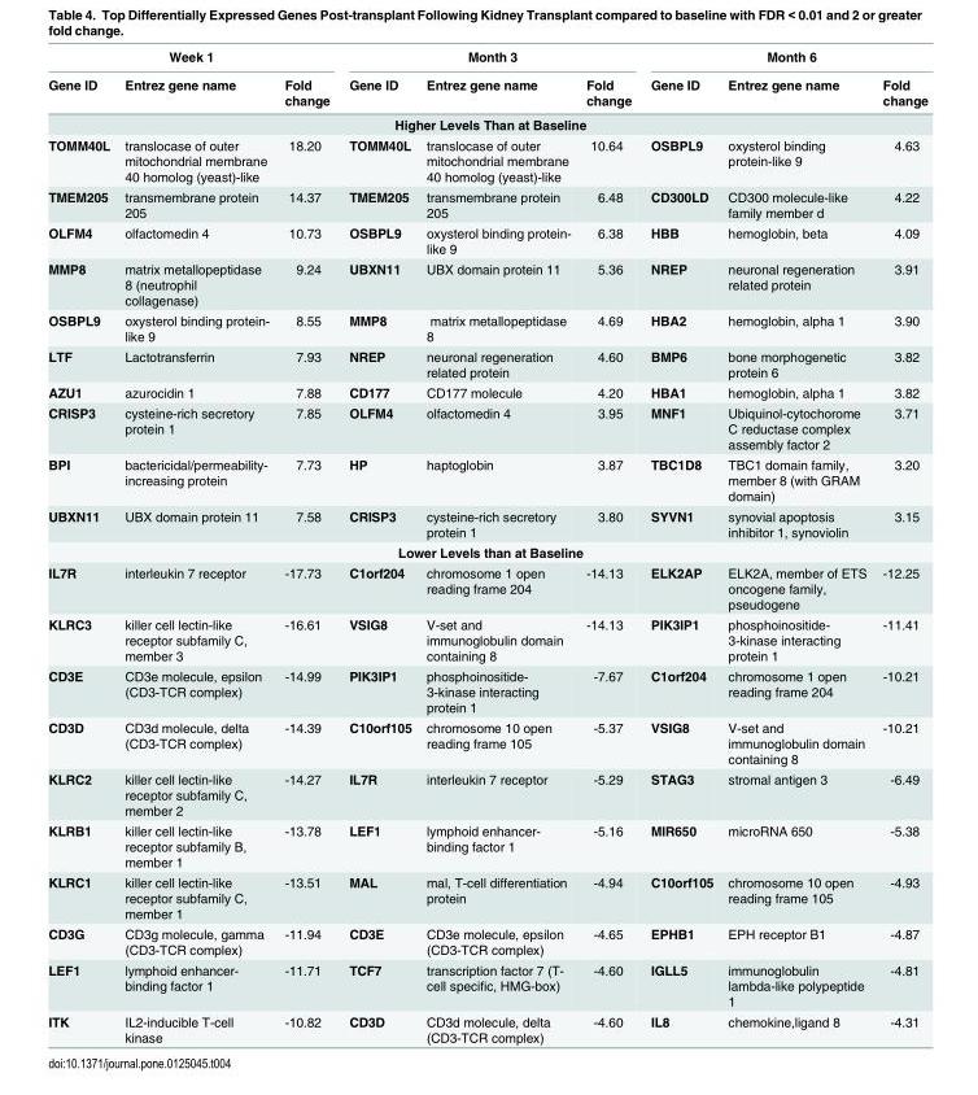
<table><thead><tr><td colspan="3">Week 1</td><td colspan="3">Month 3</td><td colspan="3">Month 6</td></tr><tr><td>Gene ID</td><td>Entrez gene name</td><td>Fold change</td><td>Gene ID</td><td>Entrez gene name</td><td>Fold change</td><td>Gene ID</td><td>Entrez gene name</td><td>Fold change</td></tr></thead><tbody><tr><td colspan="9">Higher Levels Than at Baseline</td></tr><tr><td>TOMM40L</td><td>translocase of outer mitochondrial membrane 40 homolog (yeast)-like</td><td>18.20</td><td>TOMM40L</td><td>translocase of outer mitochondrial membrane 40 homolog (yeast)-like</td><td>10.64</td><td>OSBPL9</td><td>oxysterol binding protein-like 9</td><td>4.63</td></tr><tr><td>TMEM205</td><td>transmembrane protein 205</td><td>14.37</td><td>TMEM205</td><td>transmembrane protein 205</td><td>6.48</td><td>CD300LD</td><td>CD300 molecule-like family member d</td><td>4.22</td></tr><tr><td>OLFM4</td><td>olfactomedin 4</td><td>10.73</td><td>OSBPL9</td><td>oxysterol binding protein- like 9</td><td>6.38</td><td>HBB</td><td>hemoglobin, beta</td><td>4.09</td></tr><tr><td>MMP8</td><td>matrix metallopeptidase 8 (neutrophil collagenase)</td><td>9.24</td><td>UBXN11</td><td>UBX domain protein 11</td><td>5.36</td><td>NREP</td><td>neuronal regeneration related protein</td><td>3.91</td></tr><tr><td>OSBPL9</td><td>oxysterol binding protein- like 9</td><td>8.55</td><td>MMP8</td><td>matrix metallopeptidase 8</td><td>4.69</td><td>HBA2</td><td>hemoglobin, alpha 1</td><td>3.90</td></tr><tr><td>LTF</td><td>Lactotransferrin</td><td>7.93</td><td>NREP</td><td>neuronal regeneration related protein</td><td>4.60</td><td>BMP6</td><td>bone morphogenetic protein 6</td><td>3.82</td></tr><tr><td>AZU1</td><td>azurocidin 1</td><td>7.88</td><td>CD177</td><td>CD177 molecule</td><td>4.20</td><td>HBA1</td><td>hemoglobin, alpha 1</td><td>3.82</td></tr><tr><td>CRISP3</td><td>cysteine-rich secretory protein 1</td><td>7.85</td><td>OLFM4</td><td>olfactomedin 4</td><td>3.95</td><td>MNF1</td><td>Ubiquinol-cytochorome C reductase complex assembly factor 2</td><td>3.71</td></tr><tr><td>BPI</td><td>bactericidal/permeability- increasing protein</td><td>7.73</td><td>HP</td><td>haptoglobin</td><td>3.87</td><td>TBC1D8</td><td>TBC1 domain family, member 8 (with GRAM domain)</td><td>3.20</td></tr><tr><td>UBXN11</td><td>UBX domain protein 11</td><td>7.58</td><td>CRISP3</td><td>cysteine-rich secretory protein 1</td><td>3.80</td><td>SYVN1</td><td>synovial apoptosis inhibitor 1, synoviolin</td><td>3.15</td></tr><tr><td colspan="9">Lower Levels than at Baseline</td></tr><tr><td>IL7R</td><td>interleukin 7 receptor</td><td>-17.73</td><td>C1orf204</td><td>chromosome 1 open reading frame 204</td><td>-14.13</td><td>ELK2AP</td><td>ELK2A, member of ETS oncogene family, pseudogene</td><td>-12.25</td></tr><tr><td>KLRC3</td><td>killer cell lectin-like receptor subfamily C, member 3</td><td>-16.61</td><td>VSIG8</td><td>V-set and immunoglobulin domain containing 8</td><td>-14.13</td><td>PIK3IP1</td><td>phosphoinositide- 3-kinase interacting protein 1</td><td>-11.41</td></tr><tr><td>CD3E</td><td>CD3e molecule, epsilon (CD3-TCR complex)</td><td>-14.99</td><td>PIK3IP1</td><td>phosphoinositide- 3-kinase interacting protein 1</td><td>-7.67</td><td>C1orf204</td><td>chromosome 1 open reading frame 204</td><td>-10.21</td></tr><tr><td>CD3D</td><td>CD3d molecule, delta (CD3-TCR complex)</td><td>-14.39</td><td>C10orf105</td><td>chromosome 10 open reading frame 105</td><td>-5.37</td><td>VSIG8</td><td>V-set and immunoglobulin domain containing 8</td><td>-10.21</td></tr><tr><td>KLRC2</td><td>killer cell lectin-like receptor subfamily C, member 2</td><td>-14.27</td><td>IL7R</td><td>interleukin 7 receptor</td><td>-5.29</td><td>STAG3</td><td>stromal antigen 3</td><td>-6.49</td></tr><tr><td>KLRB1</td><td>killer cell lectin-like receptor subfamily B, member 1</td><td>-13.78</td><td>LEF1</td><td>lymphoid enhancer- binding factor 1</td><td>-5.16</td><td>MIR650</td><td>microRNA 650</td><td>-5.38</td></tr><tr><td>KLRC1</td><td>killer cell lectin-like receptor subfamily C, member 1</td><td>-13.51</td><td>MAL</td><td>mal, T-cell differentiation protein</td><td>-4.94</td><td>C10orf105</td><td>chromosome 10 open reading frame 105</td><td>-4.93</td></tr><tr><td>CD3G</td><td>CD3g molecule, gamma (CD3-TCR complex)</td><td>-11.94</td><td>CD3E</td><td>CD3e molecule, epsilon (CD3-TCR complex)</td><td>-4.65</td><td>EPHB1</td><td>EPH receptor B1</td><td>-4.87</td></tr><tr><td>LEF1</td><td>lymphoid enhancer- binding factor 1</td><td>-11.71</td><td>TCF7</td><td>transcription factor 7 (T- cell specific, HMG-box)</td><td>-4.60</td><td>IGLL5</td><td>immunoglobulin lambda-like polypeptide 1</td><td>-4.81</td></tr><tr><td>ITK</td><td>IL2-inducible T-cell kinase</td><td>-10.82</td><td>CD3D</td><td>CD3d molecule, delta (CD3-TCR complex)</td><td>-4.60</td><td>IL8</td><td>chemokine,ligand 8</td><td>-4.31</td></tr></tbody></table>